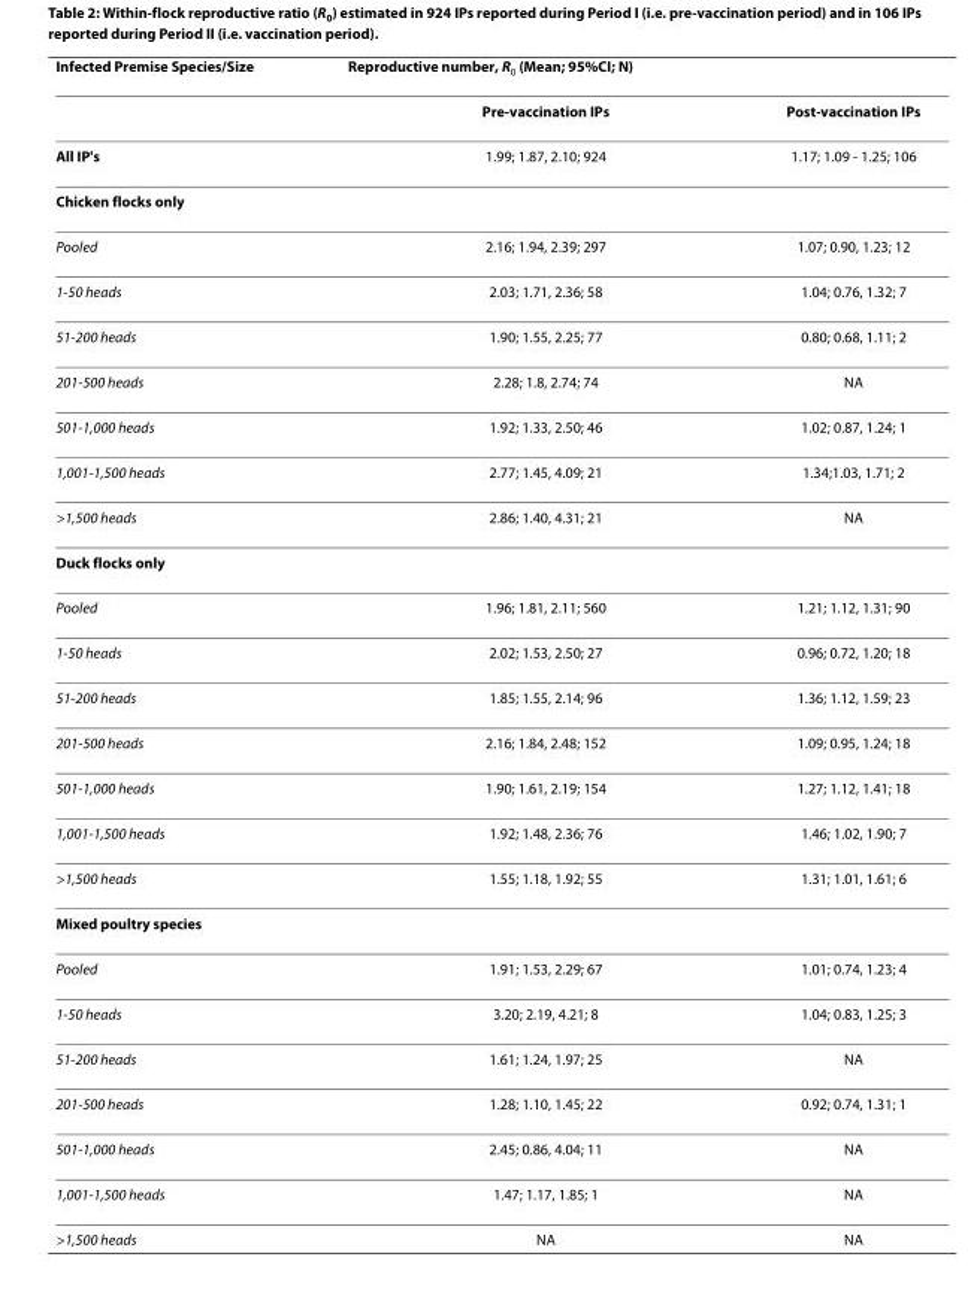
<table><thead><tr><td>Infected Premise Species/Size</td><td>Reproductive number, R<sub>0</sub> (Mean; 95%CI; N)</td><td></td></tr></thead><tbody><tr><td></td><td>Pre-vaccination IPs</td><td>Post-vaccination IPs</td></tr><tr><td>All IP&#x27;s</td><td>1.99; 1.87, 2.10; 924</td><td>1.17; 1.09 - 1.25; 106</td></tr><tr><td colspan="3">Chicken flocks only</td></tr><tr><td>Pooled</td><td>2.16; 1.94, 2.39; 297</td><td>1.07; 0.90, 1.23; 12</td></tr><tr><td>1-50 heads</td><td>2.03; 1.71, 2.36; 58</td><td>1.04; 0.76, 1.32; 7</td></tr><tr><td>51-200 heads</td><td>1.90; 1.55, 2.25; 77</td><td>0.80; 0.68, 1.11; 2</td></tr><tr><td>201-500 heads</td><td>2.28; 1.8, 2.74; 74</td><td>NA</td></tr><tr><td>501-1,000 heads</td><td>1.92; 1.33, 2.50; 46</td><td>1.02; 0.87, 1.24; 1</td></tr><tr><td>1,001-1,500 heads</td><td>2.77; 1.45, 4.09; 21</td><td>1.34;1.03, 1.71; 2</td></tr><tr><td>&gt;1,500 heads</td><td>2.86; 1.40, 4.31; 21</td><td>NA</td></tr><tr><td colspan="3">Duck flocks only</td></tr><tr><td>Pooled</td><td>1.96; 1.81, 2.11; 560</td><td>1.21; 1.12, 1.31; 90</td></tr><tr><td>1-50 heads</td><td>2.02; 1.53, 2.50; 27</td><td>0.96; 0.72, 1.20; 18</td></tr><tr><td>51-200 heads</td><td>1.85; 1.55, 2.14; 96</td><td>1.36; 1.12, 1.59; 23</td></tr><tr><td>201-500 heads</td><td>2.16; 1.84, 2.48; 152</td><td>1.09; 0.95, 1.24; 18</td></tr><tr><td>501-1,000 heads</td><td>1.90; 1.61, 2.19; 154</td><td>1.27; 1.12, 1.41; 18</td></tr><tr><td>1,001-1,500 heads</td><td>1.92; 1.48, 2.36; 76</td><td>1.46; 1.02, 1.90; 7</td></tr><tr><td>&gt;1,500 heads</td><td>1.55; 1.18, 1.92; 55</td><td>1.31; 1.01, 1.61; 6</td></tr><tr><td colspan="3">Mixed poultry species</td></tr><tr><td>Pooled</td><td>1.91; 1.53, 2.29; 67</td><td>1.01; 0.74, 1.23; 4</td></tr><tr><td>1-50 heads</td><td>3.20; 2.19, 4.21; 8</td><td>1.04; 0.83, 1.25; 3</td></tr><tr><td>51-200 heads</td><td>1.61; 1.24, 1.97; 25</td><td>NA</td></tr><tr><td>201-500 heads</td><td>1.28; 1.10, 1.45; 22</td><td>0.92; 0.74, 1.31; 1</td></tr><tr><td>501-1,000 heads</td><td>2.45; 0.86, 4.04; 11</td><td>NA</td></tr><tr><td>1,001-1,500 heads</td><td>1.47; 1.17, 1.85; 1</td><td>NA</td></tr><tr><td>&gt;1,500 heads</td><td>NA</td><td>NA</td></tr></tbody></table>